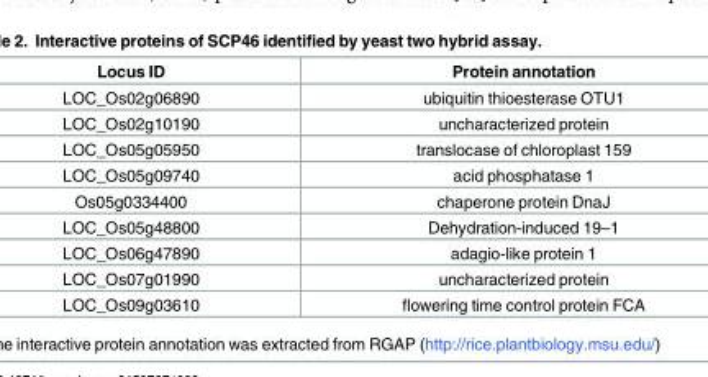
<table><thead><tr><td>Locus ID</td><td>Protein annotation</td></tr></thead><tbody><tr><td>LOC_Os02g06890</td><td>ubiquitin thioesterase OTU1</td></tr><tr><td>LOC_Os02g10190</td><td>uncharacterized protein</td></tr><tr><td>LOC_Os05g05950</td><td>translocase of chloroplast 159</td></tr><tr><td>LOC_Os05g09740</td><td>acid phosphatase 1</td></tr><tr><td>Os05g0334400</td><td>chaperone protein DnaJ</td></tr><tr><td>LOC_Os05g48800</td><td>Dehydration-induced 19–1</td></tr><tr><td>LOC_Os06g47890</td><td>adagio-like protein 1</td></tr><tr><td>LOC_Os07g01990</td><td>uncharacterized protein</td></tr><tr><td>LOC_Os09g03610</td><td>flowering time control protein FCA</td></tr></tbody></table>